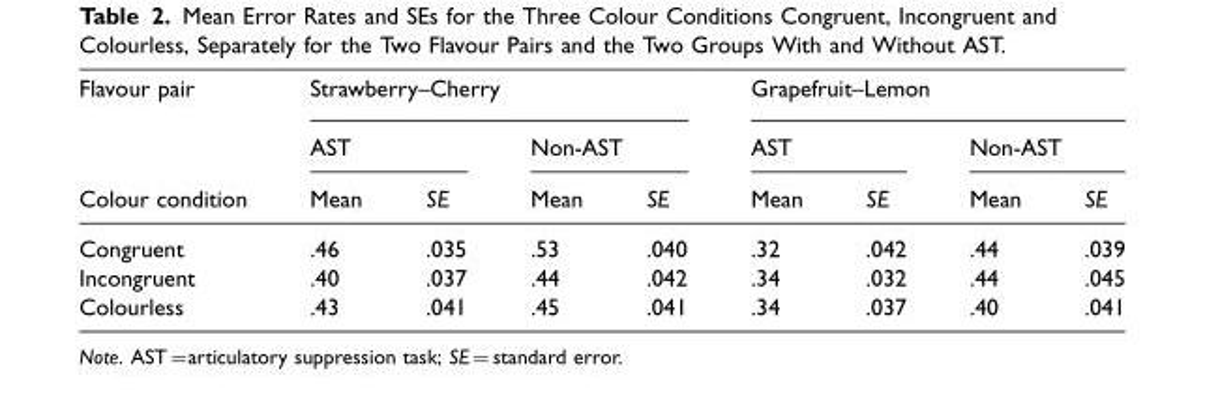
<table><thead><tr><td rowspan="3">Flavour pair Colour condition</td><td colspan="4">Strawberry–Cherry</td><td colspan="4">Grapefruit–Lemon</td></tr><tr><td colspan="2">AST</td><td colspan="2">Non-AST</td><td colspan="2">AST</td><td colspan="2">Non-AST</td></tr><tr><td>Mean</td><td>SE</td><td>Mean</td><td>SE</td><td>Mean</td><td>SE</td><td>Mean</td><td>SE</td></tr></thead><tbody><tr><td>Congruent</td><td>.46</td><td>.035</td><td>.53</td><td>.040</td><td>.32</td><td>.042</td><td>.44</td><td>.039</td></tr><tr><td>Incongruent</td><td>.40</td><td>.037</td><td>.44</td><td>.042</td><td>.34</td><td>.032</td><td>.44</td><td>.045</td></tr><tr><td>Colourless</td><td>.43</td><td>.041</td><td>.45</td><td>.041</td><td>.34</td><td>.037</td><td>.40</td><td>.041</td></tr></tbody></table>